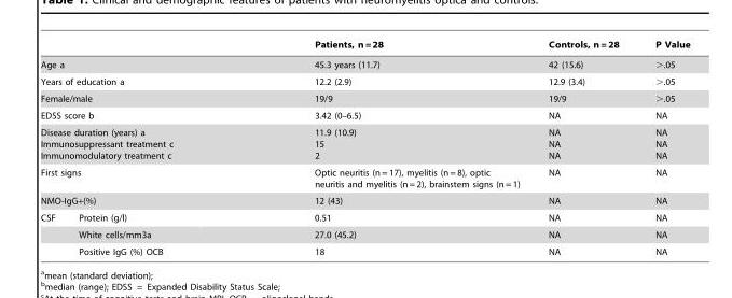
<table><thead><tr><td></td><td></td><td>Patients, n = 28</td><td>Controls, n = 28</td><td>P Value</td></tr></thead><tbody><tr><td colspan="2">Age a</td><td>45.3 years (11.7)</td><td>42 (15.6)</td><td>&gt;.05</td></tr><tr><td colspan="2">Years of education a</td><td>12.2 (2.9)</td><td>12.9 (3.4)</td><td>&gt;.05</td></tr><tr><td colspan="2">Female/male</td><td>19/9</td><td>19/9</td><td>&gt;.05</td></tr><tr><td colspan="2">EDSS score b</td><td>3.42 (0–6.5)</td><td>NA</td><td>NA</td></tr><tr><td colspan="2">Disease duration (years) a Immunosuppressant treatment c Immunomodulatory treatment c</td><td>11.9 (10.9) 15 2</td><td>NA NA NA</td><td>NA NA NA</td></tr><tr><td colspan="2">First signs</td><td>Optic neuritis (n = 17), myelitis (n = 8), optic neuritis and myelitis (n = 2), brainstem signs (n = 1)</td><td>NA</td><td>NA</td></tr><tr><td colspan="2">NMO-IgG+(%)</td><td>12 (43)</td><td>NA</td><td>NA</td></tr><tr><td rowspan="3">CSF</td><td>Protein (g/l)</td><td>0.51</td><td>NA</td><td>NA</td></tr><tr><td>White cells/mm3a</td><td>27.0 (45.2)</td><td>NA</td><td>NA</td></tr><tr><td>Positive IgG (%) OCB</td><td>18</td><td>NA</td><td>NA</td></tr></tbody></table>